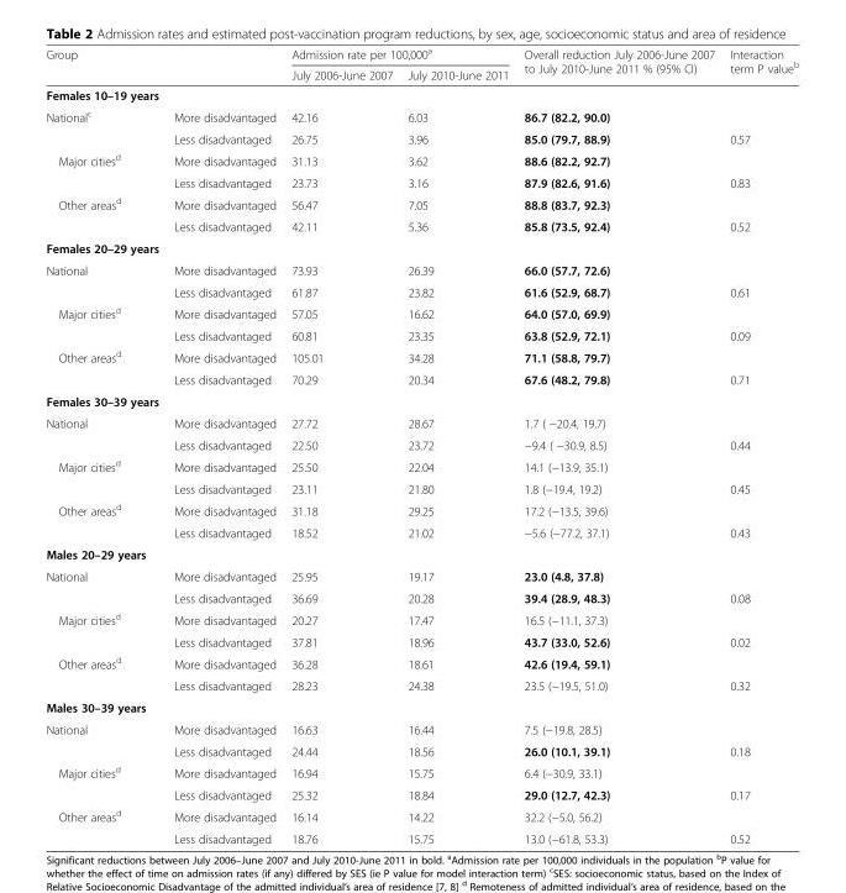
<table><thead><tr><td rowspan="2" colspan="2">Group</td><td colspan="2">Admission rate per 100,000<sup>a</sup></td><td rowspan="3">Overall reduction July 2006-June 2007 to July 2010-June 2011 % (95% CI)</td><td rowspan="3">Interaction term P value<sup>b</sup></td></tr><tr><td rowspan="2">July 2006-June 2007</td><td rowspan="2">July 2010-June 2011</td></tr><tr><td>Females 10–19 years</td><td></td></tr></thead><tbody><tr><td rowspan="2">National<sup>c</sup></td><td>More disadvantaged</td><td>42.16</td><td>6.03</td><td>86.7 (82.2, 90.0)</td><td></td></tr><tr><td>Less disadvantaged</td><td>26.75</td><td>3.96</td><td>85.0 (79.7, 88.9)</td><td>0.57</td></tr><tr><td rowspan="2">Major cities<sup>d</sup></td><td>More disadvantaged</td><td>31.13</td><td>3.62</td><td>88.6 (82.2, 92.7)</td><td></td></tr><tr><td>Less disadvantaged</td><td>23.73</td><td>3.16</td><td>87.9 (82.6, 91.6)</td><td>0.83</td></tr><tr><td rowspan="2">Other areas<sup>d</sup></td><td>More disadvantaged</td><td>56.47</td><td>7.05</td><td>88.8 (83.7, 92.3)</td><td></td></tr><tr><td>Less disadvantaged</td><td>42.11</td><td>5.36</td><td>85.8 (73.5, 92.4)</td><td>0.52</td></tr><tr><td colspan="6">Females 20–29 years</td></tr><tr><td rowspan="2">National</td><td>More disadvantaged</td><td>73.93</td><td>26.39</td><td>66.0 (57.7, 72.6)</td><td></td></tr><tr><td>Less disadvantaged</td><td>61.87</td><td>23.82</td><td>61.6 (52.9, 68.7)</td><td>0.61</td></tr><tr><td rowspan="2">Major cities<sup>d</sup></td><td>More disadvantaged</td><td>57.05</td><td>16.62</td><td>64.0 (57.0, 69.9)</td><td></td></tr><tr><td>Less disadvantaged</td><td>60.81</td><td>23.35</td><td>63.8 (52.9, 72.1)</td><td>0.09</td></tr><tr><td rowspan="2">Other areas<sup>d</sup></td><td>More disadvantaged</td><td>105.01</td><td>34.28</td><td>71.1 (58.8, 79.7)</td><td></td></tr><tr><td>Less disadvantaged</td><td>70.29</td><td>20.34</td><td>67.6 (48.2, 79.8)</td><td>0.71</td></tr><tr><td colspan="6">Females 30–39 years</td></tr><tr><td rowspan="2">National</td><td>More disadvantaged</td><td>27.72</td><td>28.67</td><td>1.7 ( −20.4, 19.7)</td><td></td></tr><tr><td>Less disadvantaged</td><td>22.50</td><td>23.72</td><td>−9.4 ( −30.9, 8.5)</td><td>0.44</td></tr><tr><td rowspan="2">Major cities<sup>d</sup></td><td>More disadvantaged</td><td>25.50</td><td>22.04</td><td>14.1 (−13.9, 35.1)</td><td></td></tr><tr><td>Less disadvantaged</td><td>23.11</td><td>21.80</td><td>1.8 (−19.4, 19.2)</td><td>0.45</td></tr><tr><td rowspan="2">Other areas<sup>d</sup></td><td>More disadvantaged</td><td>31.18</td><td>29.25</td><td>17.2 (−13.5, 39.6)</td><td></td></tr><tr><td>Less disadvantaged</td><td>18.52</td><td>21.02</td><td>−5.6 (−77.2, 37.1)</td><td>0.43</td></tr><tr><td colspan="6">Males 20–29 years</td></tr><tr><td rowspan="2">National</td><td>More disadvantaged</td><td>25.95</td><td>19.17</td><td>23.0 (4.8, 37.8)</td><td></td></tr><tr><td>Less disadvantaged</td><td>36.69</td><td>20.28</td><td>39.4 (28.9, 48.3)</td><td>0.08</td></tr><tr><td rowspan="2">Major cities<sup>d</sup></td><td>More disadvantaged</td><td>20.27</td><td>17.47</td><td>16.5 (−11.1, 37.3)</td><td></td></tr><tr><td>Less disadvantaged</td><td>37.81</td><td>18.96</td><td>43.7 (33.0, 52.6)</td><td>0.02</td></tr><tr><td rowspan="2">Other areas<sup>d</sup></td><td>More disadvantaged</td><td>36.28</td><td>18.61</td><td>42.6 (19.4, 59.1)</td><td></td></tr><tr><td>Less disadvantaged</td><td>28.23</td><td>24.38</td><td>23.5 (−19.5, 51.0)</td><td>0.32</td></tr><tr><td colspan="6">Males 30–39 years</td></tr><tr><td rowspan="2">National</td><td>More disadvantaged</td><td>16.63</td><td>16.44</td><td>7.5 (−19.8, 28.5)</td><td></td></tr><tr><td>Less disadvantaged</td><td>24.44</td><td>18.56</td><td>26.0 (10.1, 39.1)</td><td>0.18</td></tr><tr><td rowspan="2">Major cities<sup>d</sup></td><td>More disadvantaged</td><td>16.94</td><td>15.75</td><td>6.4 (−30.9, 33.1)</td><td></td></tr><tr><td>Less disadvantaged</td><td>25.32</td><td>18.84</td><td>29.0 (12.7, 42.3)</td><td>0.17</td></tr><tr><td rowspan="2">Other areas<sup>d</sup></td><td>More disadvantaged</td><td>16.14</td><td>14.22</td><td>32.2 (−5.0, 56.2)</td><td></td></tr><tr><td>Less disadvantaged</td><td>18.76</td><td>15.75</td><td>13.0 (−61.8, 53.3)</td><td>0.52</td></tr></tbody></table>